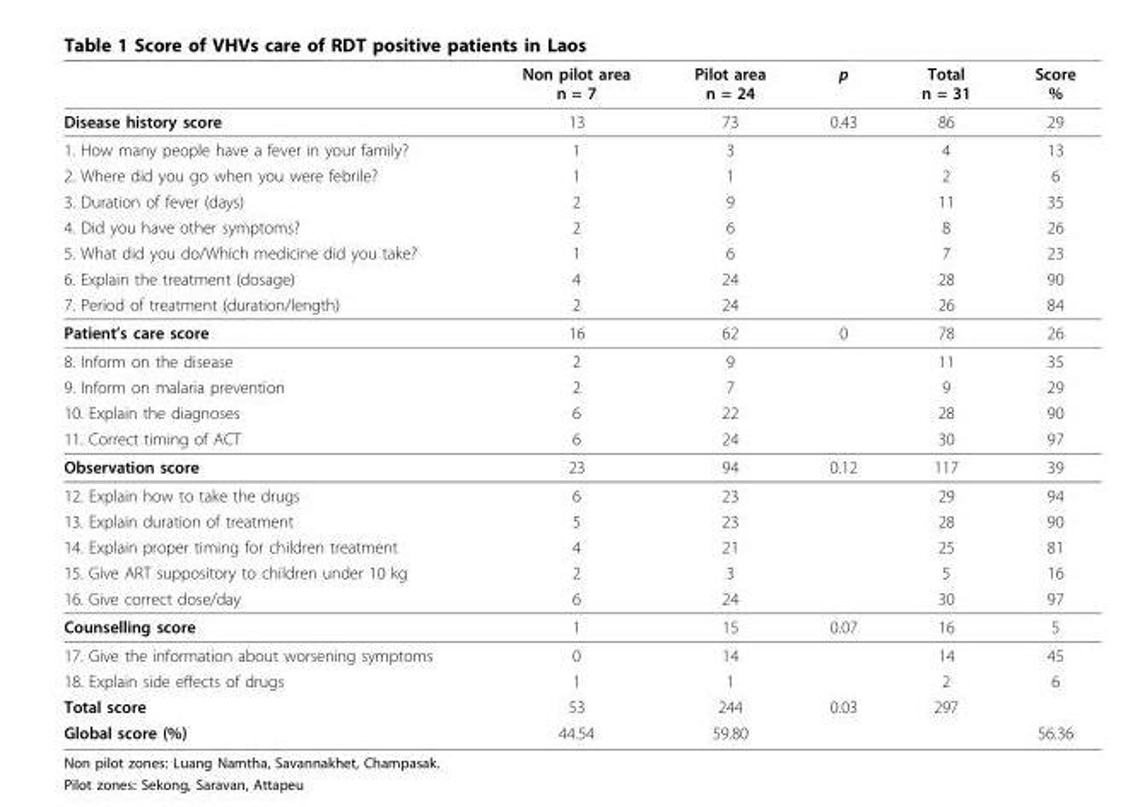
<table><thead><tr><td></td><td>Non pilot area n = 7</td><td>Pilot area n = 24</td><td>p</td><td>Total n = 31</td><td>Score %</td></tr></thead><tbody><tr><td>Disease history score</td><td>13</td><td>73</td><td>0.43</td><td>86</td><td>29</td></tr><tr><td>1. How many people have a fever in your family?</td><td>1</td><td>3</td><td></td><td>4</td><td>13</td></tr><tr><td>2. Where did you go when you were febrile?</td><td>1</td><td>1</td><td></td><td>2</td><td>6</td></tr><tr><td>3. Duration of fever (days)</td><td>2</td><td>9</td><td></td><td>11</td><td>35</td></tr><tr><td>4. Did you have other symptoms?</td><td>2</td><td>6</td><td></td><td>8</td><td>26</td></tr><tr><td>5. What did you do/Which medicine did you take?</td><td>1</td><td>6</td><td></td><td>7</td><td>23</td></tr><tr><td>6. Explain the treatment (dosage)</td><td>4</td><td>24</td><td></td><td>28</td><td>90</td></tr><tr><td>7. Period of treatment (duration/length)</td><td>2</td><td>24</td><td></td><td>26</td><td>84</td></tr><tr><td>Patient’s care score</td><td>16</td><td>62</td><td>0</td><td>78</td><td>26</td></tr><tr><td>8. Inform on the disease</td><td>2</td><td>9</td><td></td><td>11</td><td>35</td></tr><tr><td>9. Inform on malaria prevention</td><td>2</td><td>7</td><td></td><td>9</td><td>29</td></tr><tr><td>10. Explain the diagnoses</td><td>6</td><td>22</td><td></td><td>28</td><td>90</td></tr><tr><td>11. Correct timing of ACT</td><td>6</td><td>24</td><td></td><td>30</td><td>97</td></tr><tr><td>Observation score</td><td>23</td><td>94</td><td>0.12</td><td>117</td><td>39</td></tr><tr><td>12. Explain how to take the drugs</td><td>6</td><td>23</td><td></td><td>29</td><td>94</td></tr><tr><td>13. Explain duration of treatment</td><td>5</td><td>23</td><td></td><td>28</td><td>90</td></tr><tr><td>14. Explain proper timing for children treatment</td><td>4</td><td>21</td><td></td><td>25</td><td>81</td></tr><tr><td>15. Give ART suppository to children under 10 kg</td><td>2</td><td>3</td><td></td><td>5</td><td>16</td></tr><tr><td>16. Give correct dose/day</td><td>6</td><td>24</td><td></td><td>30</td><td>97</td></tr><tr><td>Counselling score</td><td>1</td><td>15</td><td>0.07</td><td>16</td><td>5</td></tr><tr><td>17. Give the information about worsening symptoms</td><td>0</td><td>14</td><td></td><td>14</td><td>45</td></tr><tr><td>18. Explain side effects of drugs</td><td>1</td><td>1</td><td></td><td>2</td><td>6</td></tr><tr><td>Total score</td><td>53</td><td>244</td><td>0.03</td><td>297</td><td></td></tr><tr><td>Global score (%)</td><td>44.54</td><td>59.80</td><td></td><td></td><td>56.36</td></tr></tbody></table>